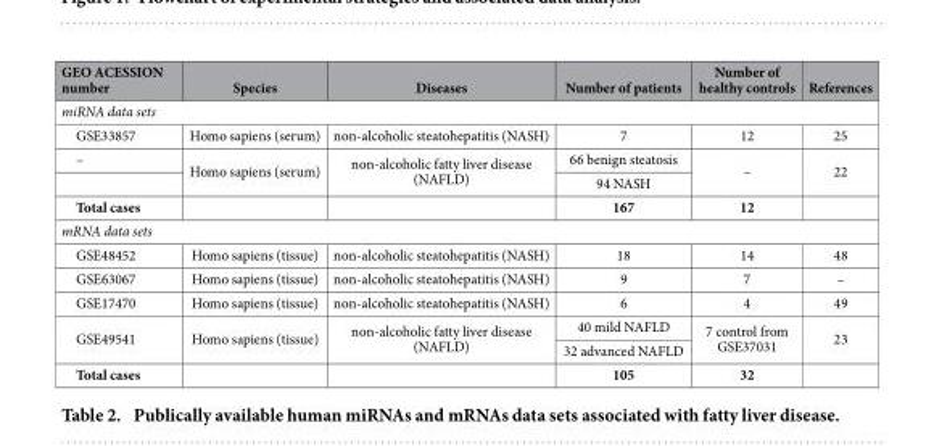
<table><thead><tr><td>GEO ACESSION number</td><td>Species</td><td>Diseases</td><td>Number of patients</td><td>Number of healthy controls</td><td>References</td></tr></thead><tbody><tr><td colspan="6">miRNA data sets</td></tr><tr><td>GSE33857</td><td>Homo sapiens (serum)</td><td>non-alcoholic steatohepatitis (NASH)</td><td>7</td><td>12</td><td>25</td></tr><tr><td rowspan="2">–</td><td rowspan="2">Homo sapiens (serum)</td><td rowspan="2">non-alcoholic fatty liver disease (NAFLD)</td><td>66 benign steatosis</td><td rowspan="2">–</td><td rowspan="2">22</td></tr><tr><td>94 NASH</td></tr><tr><td>Total cases</td><td></td><td></td><td>167</td><td>12</td><td></td></tr><tr><td colspan="6">mRNA data sets</td></tr><tr><td>GSE48452</td><td>Homo sapiens (tissue)</td><td>non-alcoholic steatohepatitis (NASH)</td><td>18</td><td>14</td><td>48</td></tr><tr><td>GSE63067</td><td>Homo sapiens (tissue)</td><td>non-alcoholic steatohepatitis (NASH)</td><td>9</td><td>7</td><td>–</td></tr><tr><td>GSE17470</td><td>Homo sapiens (tissue)</td><td>non-alcoholic steatohepatitis (NASH)</td><td>6</td><td>4</td><td>49</td></tr><tr><td rowspan="2">GSE49541</td><td rowspan="2">Homo sapiens (tissue)</td><td rowspan="2">non-alcoholic fatty liver disease (NAFLD)</td><td>40 mild NAFLD</td><td rowspan="2">7 control from GSE37031</td><td rowspan="2">23</td></tr><tr><td>32 advanced NAFLD</td></tr><tr><td>Total cases</td><td></td><td></td><td>105</td><td>32</td><td></td></tr></tbody></table>